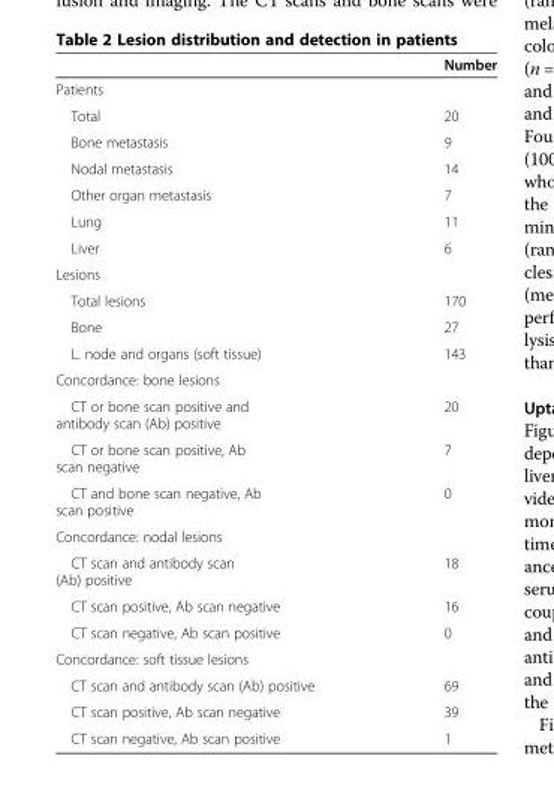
<table><thead><tr><td></td><td>Number</td></tr></thead><tbody><tr><td colspan="2">Patients</td></tr><tr><td>Total</td><td>20</td></tr><tr><td>Bone metastasis</td><td>9</td></tr><tr><td>Nodal metastasis</td><td>14</td></tr><tr><td>Other organ metastasis</td><td>7</td></tr><tr><td>Lung</td><td>11</td></tr><tr><td>Liver</td><td>6</td></tr><tr><td colspan="2">Lesions</td></tr><tr><td>Total lesions</td><td>170</td></tr><tr><td>Bone</td><td>27</td></tr><tr><td>L. node and organs (soft tissue)</td><td>143</td></tr><tr><td colspan="2">Concordance: bone lesions</td></tr><tr><td>CT or bone scan positive and antibody scan (Ab) positive</td><td>20</td></tr><tr><td>CT or bone scan positive, Ab scan negative</td><td>7</td></tr><tr><td>CT and bone scan negative, Ab scan positive</td><td>0</td></tr><tr><td colspan="2">Concordance: nodal lesions</td></tr><tr><td>CT scan and antibody scan (Ab) positive</td><td>18</td></tr><tr><td>CT scan positive, Ab scan negative</td><td>16</td></tr><tr><td>CT scan negative, Ab scan positive</td><td>0</td></tr><tr><td colspan="2">Concordance: soft tissue lesions</td></tr><tr><td>CT scan and antibody scan (Ab) positive</td><td>69</td></tr><tr><td>CT scan positive, Ab scan negative</td><td>39</td></tr><tr><td>CT scan negative, Ab scan positive</td><td>1</td></tr></tbody></table>